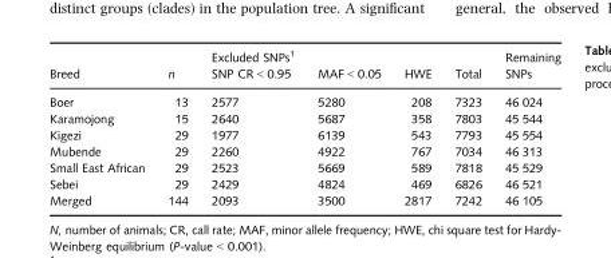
<table><thead><tr><td>Breed</td><td>n</td><td>Excluded SNPs1 SNP CR &lt; 0.95</td><td>MAF &lt; 0.05</td><td>HWE</td><td>Total</td><td>Remaining SNPs</td></tr></thead><tbody><tr><td>Boer</td><td>13</td><td>2577</td><td>5280</td><td>208</td><td>7323</td><td>46 024</td></tr><tr><td>Karamojong</td><td>15</td><td>2640</td><td>5687</td><td>358</td><td>7803</td><td>45 544</td></tr><tr><td>Kigezi</td><td>29</td><td>1977</td><td>6139</td><td>543</td><td>7793</td><td>45 554</td></tr><tr><td>Mubende</td><td>29</td><td>2260</td><td>4922</td><td>767</td><td>7034</td><td>46 313</td></tr><tr><td>Small East African</td><td>29</td><td>2523</td><td>5669</td><td>589</td><td>7818</td><td>45 529</td></tr><tr><td>Sebei</td><td>29</td><td>2429</td><td>4824</td><td>469</td><td>6826</td><td>46 521</td></tr><tr><td>Merged</td><td>144</td><td>2093</td><td>3500</td><td>2817</td><td>7242</td><td>46 105</td></tr></tbody></table>